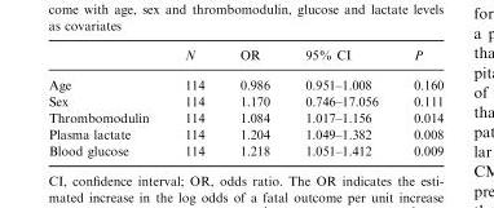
<table><thead><tr><td></td><td>N</td><td>OR</td><td>95% CI</td><td>P</td></tr></thead><tbody><tr><td>Age</td><td>114</td><td>0.986</td><td>0.951–1.008</td><td>0.160</td></tr><tr><td>Sex</td><td>114</td><td>1.170</td><td>0.746–17.056</td><td>0.111</td></tr><tr><td>Thrombomodulin</td><td>114</td><td>1.084</td><td>1.017–1.156</td><td>0.014</td></tr><tr><td>Plasma lactate</td><td>114</td><td>1.204</td><td>1.049–1.382</td><td>0.008</td></tr><tr><td>Blood glucose</td><td>114</td><td>1.218</td><td>1.051–1.412</td><td>0.009</td></tr></tbody></table>